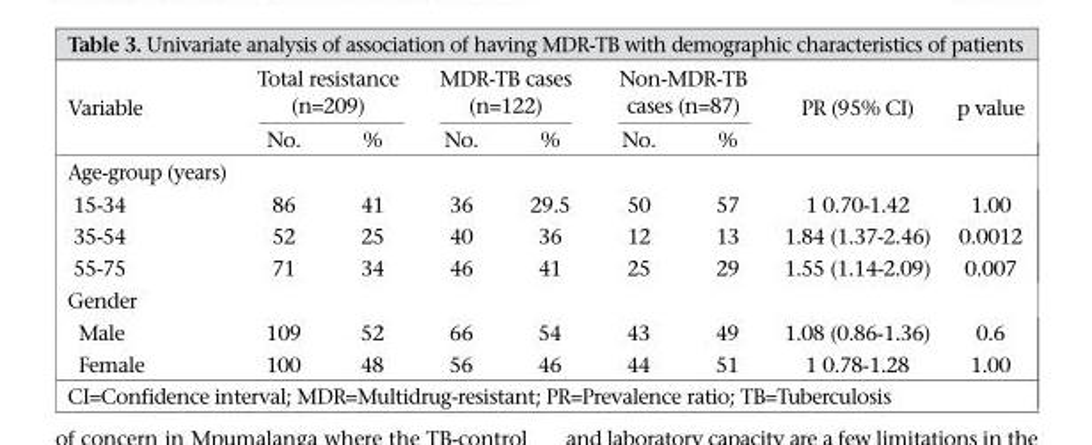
<table><thead><tr><td rowspan="2">Variable</td><td colspan="2">Total resistance (n=209)</td><td colspan="2">MDR-TB cases (n=122)</td><td colspan="2">Non-MDR-TB cases (n=87)</td><td rowspan="2">PR (95% CI)</td><td rowspan="2">p value</td></tr><tr><td>No.</td><td>%</td><td>No.</td><td>%</td><td>No.</td><td>%</td></tr></thead><tbody><tr><td colspan="9">Age-group (years)</td></tr><tr><td>15-34</td><td>86</td><td>41</td><td>36</td><td>29.5</td><td>50</td><td>57</td><td>1 0.70-1.42</td><td>1.00</td></tr><tr><td>35-54</td><td>52</td><td>25</td><td>40</td><td>36</td><td>12</td><td>13</td><td>1.84 (1.37-2.46)</td><td>0.0012</td></tr><tr><td>55-75</td><td>71</td><td>34</td><td>46</td><td>41</td><td>25</td><td>29</td><td>1.55 (1.14-2.09)</td><td>0.007</td></tr><tr><td colspan="9">Gender</td></tr><tr><td>Male</td><td>109</td><td>52</td><td>66</td><td>54</td><td>43</td><td>49</td><td>1.08 (0.86-1.36)</td><td>0.6</td></tr><tr><td>Female</td><td>100</td><td>48</td><td>56</td><td>46</td><td>44</td><td>51</td><td>1 0.78-1.28</td><td>1.00</td></tr></tbody></table>